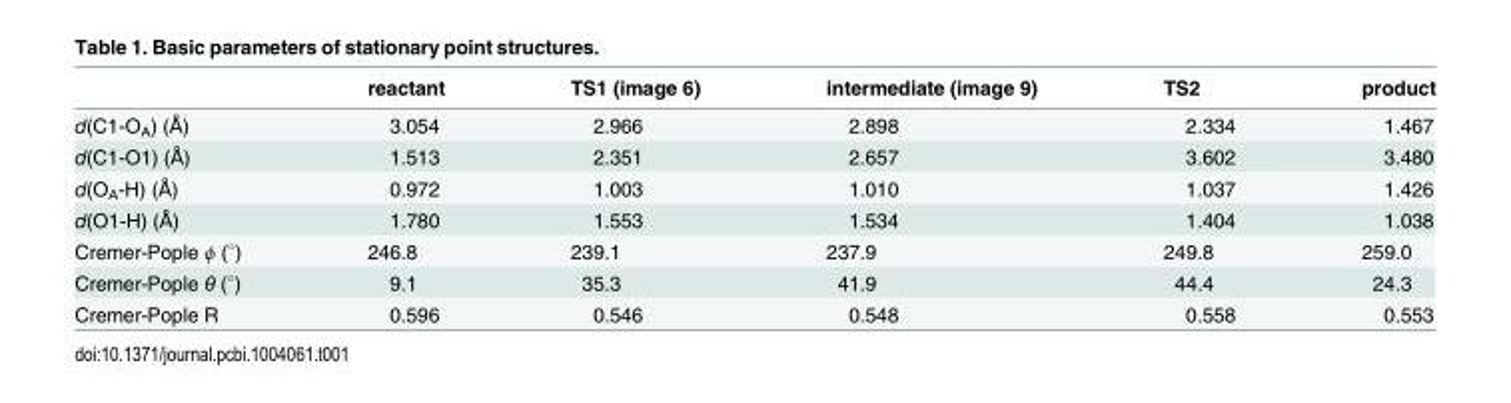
<table><thead><tr><td></td><td>reactant</td><td>TS1 (image 6)</td><td>intermediate (image 9)</td><td>TS2</td><td>product</td></tr></thead><tbody><tr><td>d(C1-O<sub>A</sub>) (Å)</td><td>3.054</td><td>2.966</td><td>2.898</td><td>2.334</td><td>1.467</td></tr><tr><td>d(C1-O1) (Å)</td><td>1.513</td><td>2.351</td><td>2.657</td><td>3.602</td><td>3.480</td></tr><tr><td>d(O<sub>A</sub>-H) (Å)</td><td>0.972</td><td>1.003</td><td>1.010</td><td>1.037</td><td>1.426</td></tr><tr><td>d(O1-H) (Å)</td><td>1.780</td><td>1.553</td><td>1.534</td><td>1.404</td><td>1.038</td></tr><tr><td>Cremer-Pople ϕ (<sup>∘</sup>)</td><td>246.8</td><td>239.1</td><td>237.9</td><td>249.8</td><td>259.0</td></tr><tr><td>Cremer-Pople θ (<sup>∘</sup>)</td><td>9.1</td><td>35.3</td><td>41.9</td><td>44.4</td><td>24.3</td></tr><tr><td>Cremer-Pople R</td><td>0.596</td><td>0.546</td><td>0.548</td><td>0.558</td><td>0.553</td></tr></tbody></table>